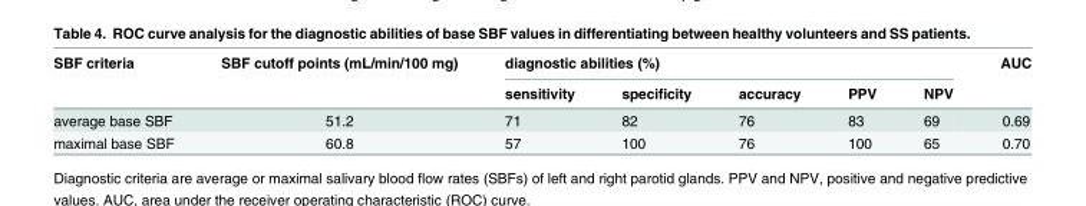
<table><thead><tr><td rowspan="2">SBF criteria</td><td rowspan="2">SBF cutoff points (mL/min/100 mg)</td><td colspan="5">diagnostic abilities (%)</td><td rowspan="2">AUC</td></tr><tr><td>sensitivity</td><td>specificity</td><td>accuracy</td><td>PPV</td><td>NPV</td></tr></thead><tbody><tr><td>average base SBF</td><td>51.2</td><td>71</td><td>82</td><td>76</td><td>83</td><td>69</td><td>0.69</td></tr><tr><td>maximal base SBF</td><td>60.8</td><td>57</td><td>100</td><td>76</td><td>100</td><td>65</td><td>0.70</td></tr></tbody></table>